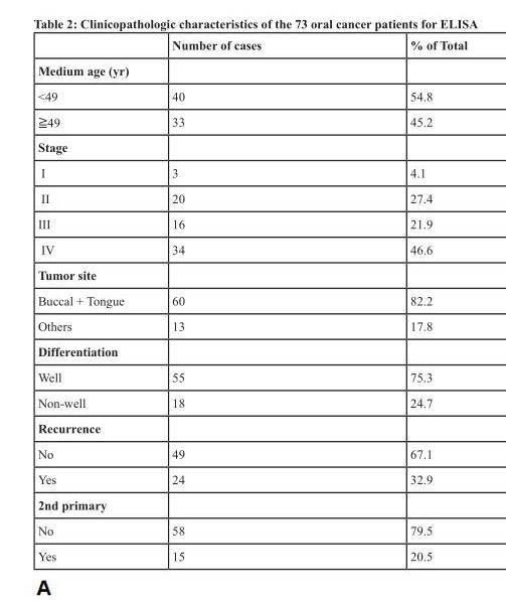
<table><thead><tr><td></td><td>Number of cases</td><td>% of Total</td></tr></thead><tbody><tr><td colspan="3">Medium age (yr)</td></tr><tr><td>&lt;49</td><td>40</td><td>54.8</td></tr><tr><td>≧49</td><td>33</td><td>45.2</td></tr><tr><td colspan="3">Stage</td></tr><tr><td>I</td><td>3</td><td>4.1</td></tr><tr><td>II</td><td>20</td><td>27.4</td></tr><tr><td>III</td><td>16</td><td>21.9</td></tr><tr><td>IV</td><td>34</td><td>46.6</td></tr><tr><td colspan="3">Tumor site</td></tr><tr><td>Buccal + Tongue</td><td>60</td><td>82.2</td></tr><tr><td>Others</td><td>13</td><td>17.8</td></tr><tr><td colspan="3">Differentiation</td></tr><tr><td>Well</td><td>55</td><td>75.3</td></tr><tr><td>Non-well</td><td>18</td><td>24.7</td></tr><tr><td colspan="3">Recurrence</td></tr><tr><td>No</td><td>49</td><td>67.1</td></tr><tr><td>Yes</td><td>24</td><td>32.9</td></tr><tr><td colspan="3">2nd primary</td></tr><tr><td>No</td><td>58</td><td>79.5</td></tr><tr><td>Yes</td><td>15</td><td>20.5</td></tr></tbody></table>